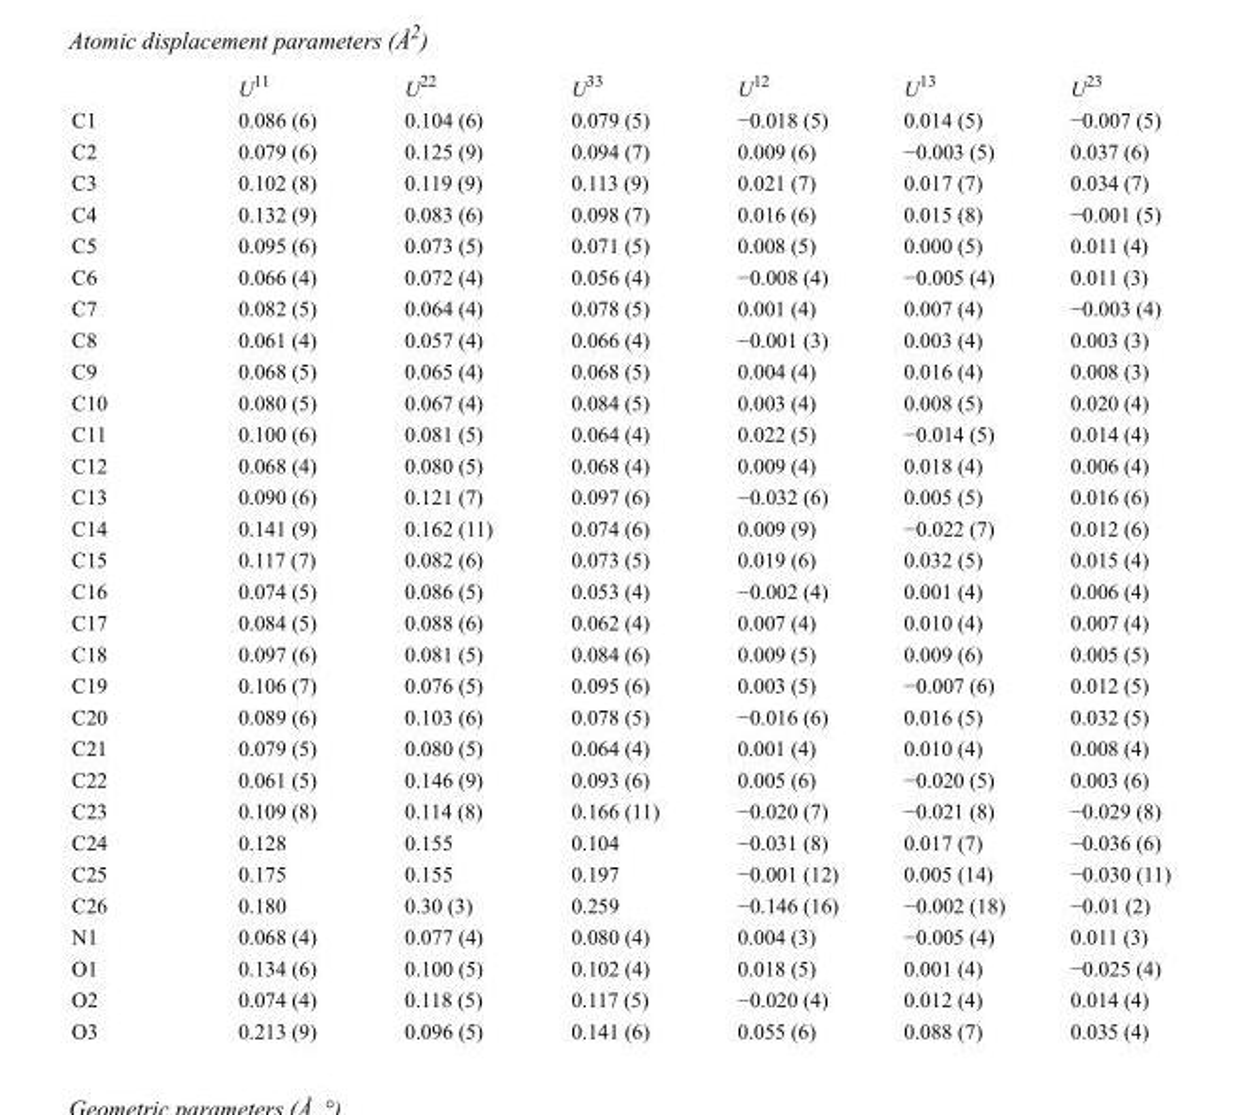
<table><thead><tr><td></td><td>U<sup>11</sup></td><td>U<sup>22</sup></td><td>U<sup>33</sup></td><td>U<sup>12</sup></td><td>U<sup>13</sup></td><td>U<sup>23</sup></td></tr></thead><tbody><tr><td>C1</td><td>0.086 (6)</td><td>0.104 (6)</td><td>0.079 (5)</td><td>−0.018 (5)</td><td>0.014 (5)</td><td>−0.007 (5)</td></tr><tr><td>C2</td><td>0.079 (6)</td><td>0.125 (9)</td><td>0.094 (7)</td><td>0.009 (6)</td><td>−0.003 (5)</td><td>0.037 (6)</td></tr><tr><td>C3</td><td>0.102 (8)</td><td>0.119 (9)</td><td>0.113 (9)</td><td>0.021 (7)</td><td>0.017 (7)</td><td>0.034 (7)</td></tr><tr><td>C4</td><td>0.132 (9)</td><td>0.083 (6)</td><td>0.098 (7)</td><td>0.016 (6)</td><td>0.015 (8)</td><td>−0.001 (5)</td></tr><tr><td>C5</td><td>0.095 (6)</td><td>0.073 (5)</td><td>0.071 (5)</td><td>0.008 (5)</td><td>0.000 (5)</td><td>0.011 (4)</td></tr><tr><td>C6</td><td>0.066 (4)</td><td>0.072 (4)</td><td>0.056 (4)</td><td>−0.008 (4)</td><td>−0.005 (4)</td><td>0.011 (3)</td></tr><tr><td>C7</td><td>0.082 (5)</td><td>0.064 (4)</td><td>0.078 (5)</td><td>0.001 (4)</td><td>0.007 (4)</td><td>−0.003 (4)</td></tr><tr><td>C8</td><td>0.061 (4)</td><td>0.057 (4)</td><td>0.066 (4)</td><td>−0.001 (3)</td><td>0.003 (4)</td><td>0.003 (3)</td></tr><tr><td>C9</td><td>0.068 (5)</td><td>0.065 (4)</td><td>0.068 (5)</td><td>0.004 (4)</td><td>0.016 (4)</td><td>0.008 (3)</td></tr><tr><td>C10</td><td>0.080 (5)</td><td>0.067 (4)</td><td>0.084 (5)</td><td>0.003 (4)</td><td>0.008 (5)</td><td>0.020 (4)</td></tr><tr><td>C11</td><td>0.100 (6)</td><td>0.081 (5)</td><td>0.064 (4)</td><td>0.022 (5)</td><td>−0.014 (5)</td><td>0.014 (4)</td></tr><tr><td>C12</td><td>0.068 (4)</td><td>0.080 (5)</td><td>0.068 (4)</td><td>0.009 (4)</td><td>0.018 (4)</td><td>0.006 (4)</td></tr><tr><td>C13</td><td>0.090 (6)</td><td>0.121 (7)</td><td>0.097 (6)</td><td>−0.032 (6)</td><td>0.005 (5)</td><td>0.016 (6)</td></tr><tr><td>C14</td><td>0.141 (9)</td><td>0.162 (11)</td><td>0.074 (6)</td><td>0.009 (9)</td><td>−0.022 (7)</td><td>0.012 (6)</td></tr><tr><td>C15</td><td>0.117 (7)</td><td>0.082 (6)</td><td>0.073 (5)</td><td>0.019 (6)</td><td>0.032 (5)</td><td>0.015 (4)</td></tr><tr><td>C16</td><td>0.074 (5)</td><td>0.086 (5)</td><td>0.053 (4)</td><td>−0.002 (4)</td><td>0.001 (4)</td><td>0.006 (4)</td></tr><tr><td>C17</td><td>0.084 (5)</td><td>0.088 (6)</td><td>0.062 (4)</td><td>0.007 (4)</td><td>0.010 (4)</td><td>0.007 (4)</td></tr><tr><td>C18</td><td>0.097 (6)</td><td>0.081 (5)</td><td>0.084 (6)</td><td>0.009 (5)</td><td>0.009 (6)</td><td>0.005 (5)</td></tr><tr><td>C19</td><td>0.106 (7)</td><td>0.076 (5)</td><td>0.095 (6)</td><td>0.003 (5)</td><td>−0.007 (6)</td><td>0.012 (5)</td></tr><tr><td>C20</td><td>0.089 (6)</td><td>0.103 (6)</td><td>0.078 (5)</td><td>−0.016 (6)</td><td>0.016 (5)</td><td>0.032 (5)</td></tr><tr><td>C21</td><td>0.079 (5)</td><td>0.080 (5)</td><td>0.064 (4)</td><td>0.001 (4)</td><td>0.010 (4)</td><td>0.008 (4)</td></tr><tr><td>C22</td><td>0.061 (5)</td><td>0.146 (9)</td><td>0.093 (6)</td><td>0.005 (6)</td><td>−0.020 (5)</td><td>0.003 (6)</td></tr><tr><td>C23</td><td>0.109 (8)</td><td>0.114 (8)</td><td>0.166 (11)</td><td>−0.020 (7)</td><td>−0.021 (8)</td><td>−0.029 (8)</td></tr><tr><td>C24</td><td>0.128</td><td>0.155</td><td>0.104</td><td>−0.031 (8)</td><td>0.017 (7)</td><td>−0.036 (6)</td></tr><tr><td>C25</td><td>0.175</td><td>0.155</td><td>0.197</td><td>−0.001 (12)</td><td>0.005 (14)</td><td>−0.030 (11)</td></tr><tr><td>C26</td><td>0.180</td><td>0.30 (3)</td><td>0.259</td><td>−0.146 (16)</td><td>−0.002 (18)</td><td>−0.01 (2)</td></tr><tr><td>N1</td><td>0.068 (4)</td><td>0.077 (4)</td><td>0.080 (4)</td><td>0.004 (3)</td><td>−0.005 (4)</td><td>0.011 (3)</td></tr><tr><td>O1</td><td>0.134 (6)</td><td>0.100 (5)</td><td>0.102 (4)</td><td>0.018 (5)</td><td>0.001 (4)</td><td>−0.025 (4)</td></tr><tr><td>O2</td><td>0.074 (4)</td><td>0.118 (5)</td><td>0.117 (5)</td><td>−0.020 (4)</td><td>0.012 (4)</td><td>0.014 (4)</td></tr><tr><td>O3</td><td>0.213 (9)</td><td>0.096 (5)</td><td>0.141 (6)</td><td>0.055 (6)</td><td>0.088 (7)</td><td>0.035 (4)</td></tr></tbody></table>